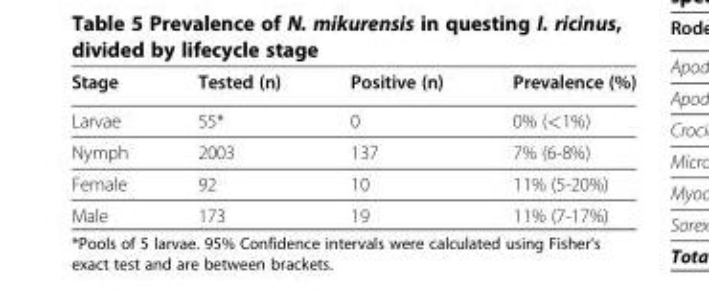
<table><thead><tr><td>Stage</td><td>Tested (n)</td><td>Positive (n)</td><td>Prevalence (%)</td></tr></thead><tbody><tr><td>Larvae</td><td>55*</td><td>0</td><td>0% (&lt;1%)</td></tr><tr><td>Nymph</td><td>2003</td><td>137</td><td>7% (6-8%)</td></tr><tr><td>Female</td><td>92</td><td>10</td><td>11% (5-20%)</td></tr><tr><td>Male</td><td>173</td><td>19</td><td>11% (7-17%)</td></tr></tbody></table>